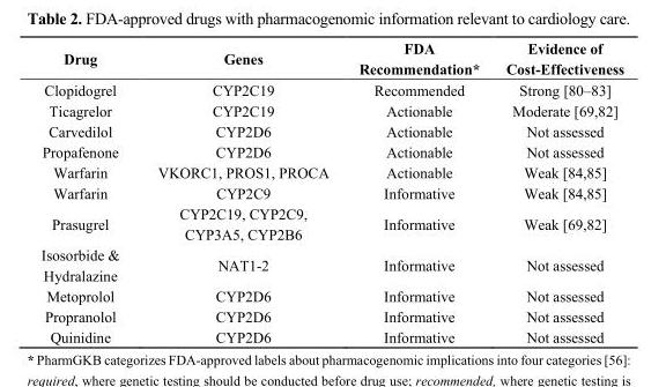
<table><thead><tr><td>Drug</td><td>Genes</td><td>FDA Recommendation*</td><td>Evidence of Cost-Effectiveness</td></tr></thead><tbody><tr><td>Clopidogrel</td><td>CYP2C19</td><td>Recommended</td><td>Strong [80–83]</td></tr><tr><td>Ticagrelor</td><td>CYP2C19</td><td>Actionable</td><td>Moderate [69,82]</td></tr><tr><td>Carvedilol</td><td>CYP2D6</td><td>Actionable</td><td>Not assessed</td></tr><tr><td>Propafenone</td><td>CYP2D6</td><td>Actionable</td><td>Not assessed</td></tr><tr><td>Warfarin</td><td>VKORC1, PROS1, PROCA</td><td>Actionable</td><td>Weak [84,85]</td></tr><tr><td>Warfarin</td><td>CYP2C9</td><td>Informative</td><td>Weak [84,85]</td></tr><tr><td>Prasugrel</td><td>CYP2C19, CYP2C9, CYP3A5, CYP2B6</td><td>Informative</td><td>Weak [69,82]</td></tr><tr><td>Isosorbide &amp; Hydralazine</td><td>NAT1-2</td><td>Informative</td><td>Not assessed</td></tr><tr><td>Metoprolol</td><td>CYP2D6</td><td>Informative</td><td>Not assessed</td></tr><tr><td>Propranolol</td><td>CYP2D6</td><td>Informative</td><td>Not assessed</td></tr><tr><td>Quinidine</td><td>CYP2D6</td><td>Informative</td><td>Not assessed</td></tr></tbody></table>